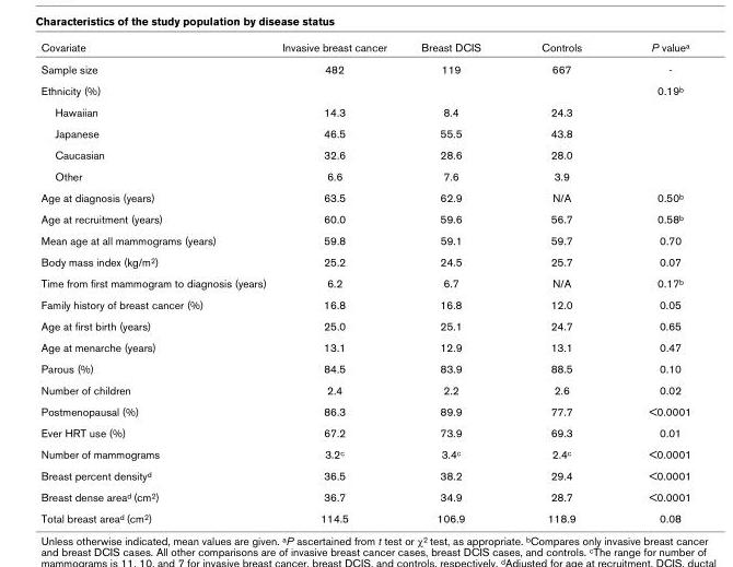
<table><thead><tr><td>Covariate</td><td>Invasive breast cancer</td><td>Breast DCIS</td><td>Controls</td><td>P valuea</td></tr></thead><tbody><tr><td>Sample size</td><td>482</td><td>119</td><td>667</td><td>-</td></tr><tr><td>Ethnicity (%)</td><td></td><td></td><td></td><td>0.19b</td></tr><tr><td>Hawaiian</td><td>14.3</td><td>8.4</td><td>24.3</td><td></td></tr><tr><td>Japanese</td><td>46.5</td><td>55.5</td><td>43.8</td><td></td></tr><tr><td>Caucasian</td><td>32.6</td><td>28.6</td><td>28.0</td><td></td></tr><tr><td>Other</td><td>6.6</td><td>7.6</td><td>3.9</td><td></td></tr><tr><td>Age at diagnosis (years)</td><td>63.5</td><td>62.9</td><td>N/A</td><td>0.50b</td></tr><tr><td>Age at recruitment (years)</td><td>60.0</td><td>59.6</td><td>56.7</td><td>0.58b</td></tr><tr><td>Mean age at all mammograms (years)</td><td>59.8</td><td>59.1</td><td>59.7</td><td>0.70</td></tr><tr><td>Body mass index (kg/m2)</td><td>25.2</td><td>24.5</td><td>25.7</td><td>0.07</td></tr><tr><td>Time from first mammogram to diagnosis (years)</td><td>6.2</td><td>6.7</td><td>N/A</td><td>0.17b</td></tr><tr><td>Family history of breast cancer (%)</td><td>16.8</td><td>16.8</td><td>12.0</td><td>0.05</td></tr><tr><td>Age at first birth (years)</td><td>25.0</td><td>25.1</td><td>24.7</td><td>0.65</td></tr><tr><td>Age at menarche (years)</td><td>13.1</td><td>12.9</td><td>13.1</td><td>0.47</td></tr><tr><td>Parous (%)</td><td>84.5</td><td>83.9</td><td>88.5</td><td>0.10</td></tr><tr><td>Number of children</td><td>2.4</td><td>2.2</td><td>2.6</td><td>0.02</td></tr><tr><td>Postmenopausal (%)</td><td>86.3</td><td>89.9</td><td>77.7</td><td>&lt;0.0001</td></tr><tr><td>Ever HRT use (%)</td><td>67.2</td><td>73.9</td><td>69.3</td><td>0.01</td></tr><tr><td>Number of mammograms</td><td>3.2c</td><td>3.4c</td><td>2.4c</td><td>&lt;0.0001</td></tr><tr><td>Breast percent densityd</td><td>36.5</td><td>38.2</td><td>29.4</td><td>&lt;0.0001</td></tr><tr><td>Breast dense aread (cm2)</td><td>36.7</td><td>34.9</td><td>28.7</td><td>&lt;0.0001</td></tr><tr><td>Total breast aread (cm2)</td><td>114.5</td><td>106.9</td><td>118.9</td><td>0.08</td></tr></tbody></table>